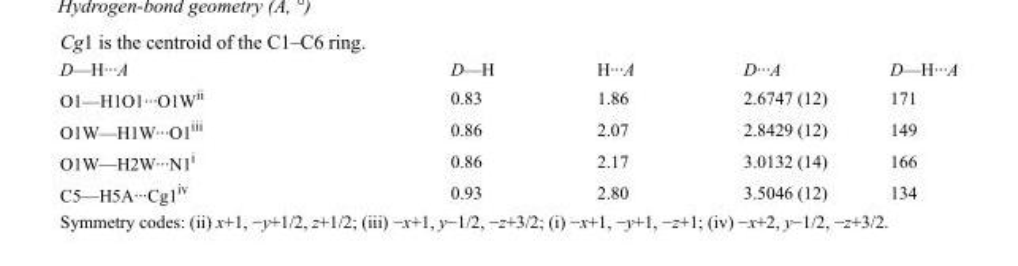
<table><tbody><tr><td>D—H···A</td><td>D—H</td><td>H···A</td><td>D···A</td><td>D—H···A</td></tr><tr><td>O1—H1O1···O1W<sup>ii</sup></td><td>0.83</td><td>1.86</td><td>2.6747 (12)</td><td>171</td></tr><tr><td>O1W—H1W···O1<sup>iii</sup></td><td>0.86</td><td>2.07</td><td>2.8429 (12)</td><td>149</td></tr><tr><td>O1W—H2W···N1<sup>i</sup></td><td>0.86</td><td>2.17</td><td>3.0132 (14)</td><td>166</td></tr><tr><td>C5—H5A···Cg1<sup>iv</sup></td><td>0.93</td><td>2.80</td><td>3.5046 (12)</td><td>134</td></tr></tbody></table>